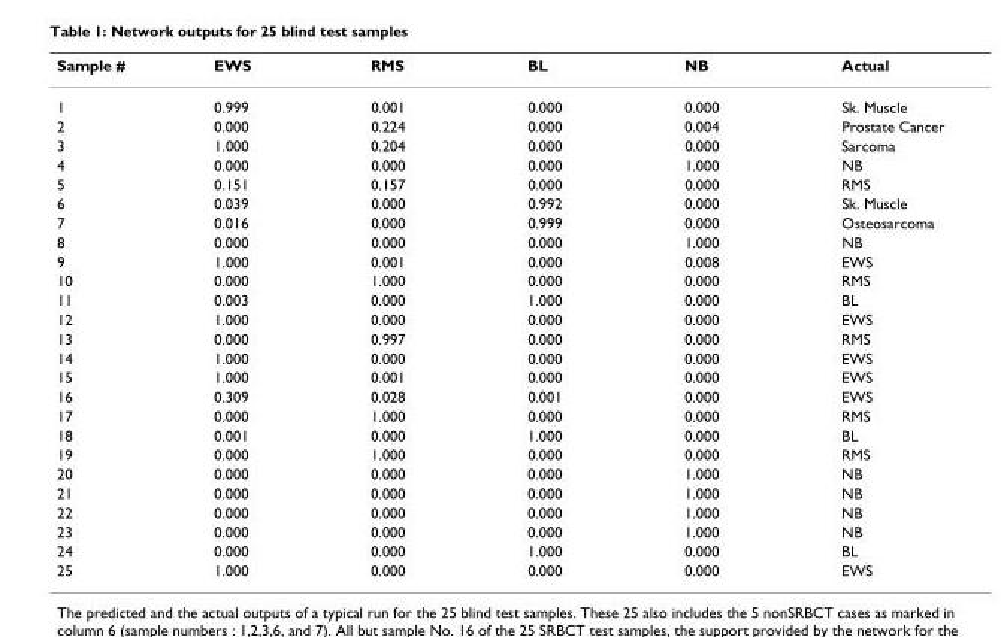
<table><thead><tr><td>Sample #</td><td>EWS</td><td>RMS</td><td>BL</td><td>NB</td><td>Actual</td></tr></thead><tbody><tr><td>1</td><td>0.999</td><td>0.001</td><td>0.000</td><td>0.000</td><td>Sk. Muscle</td></tr><tr><td>2</td><td>0.000</td><td>0.224</td><td>0.000</td><td>0.004</td><td>Prostate Cancer</td></tr><tr><td>3</td><td>1.000</td><td>0.204</td><td>0.000</td><td>0.000</td><td>Sarcoma</td></tr><tr><td>4</td><td>0.000</td><td>0.000</td><td>0.000</td><td>1.000</td><td>NB</td></tr><tr><td>5</td><td>0.151</td><td>0.157</td><td>0.000</td><td>0.000</td><td>RMS</td></tr><tr><td>6</td><td>0.039</td><td>0.000</td><td>0.992</td><td>0.000</td><td>Sk. Muscle</td></tr><tr><td>7</td><td>0.016</td><td>0.000</td><td>0.999</td><td>0.000</td><td>Osteosarcoma</td></tr><tr><td>8</td><td>0.000</td><td>0.000</td><td>0.000</td><td>1.000</td><td>NB</td></tr><tr><td>9</td><td>1.000</td><td>0.001</td><td>0.000</td><td>0.008</td><td>EWS</td></tr><tr><td>10</td><td>0.000</td><td>1.000</td><td>0.000</td><td>0.000</td><td>RMS</td></tr><tr><td>11</td><td>0.003</td><td>0.000</td><td>1.000</td><td>0.000</td><td>BL</td></tr><tr><td>12</td><td>1.000</td><td>0.000</td><td>0.000</td><td>0.000</td><td>EWS</td></tr><tr><td>13</td><td>0.000</td><td>0.997</td><td>0.000</td><td>0.000</td><td>RMS</td></tr><tr><td>14</td><td>1.000</td><td>0.000</td><td>0.000</td><td>0.000</td><td>EWS</td></tr><tr><td>15</td><td>1.000</td><td>0.001</td><td>0.000</td><td>0.000</td><td>EWS</td></tr><tr><td>16</td><td>0.309</td><td>0.028</td><td>0.001</td><td>0.000</td><td>EWS</td></tr><tr><td>17</td><td>0.000</td><td>1.000</td><td>0.000</td><td>0.000</td><td>RMS</td></tr><tr><td>18</td><td>0.001</td><td>0.000</td><td>1.000</td><td>0.000</td><td>BL</td></tr><tr><td>19</td><td>0.000</td><td>1.000</td><td>0.000</td><td>0.000</td><td>RMS</td></tr><tr><td>20</td><td>0.000</td><td>0.000</td><td>0.000</td><td>1.000</td><td>NB</td></tr><tr><td>21</td><td>0.000</td><td>0.000</td><td>0.000</td><td>1.000</td><td>NB</td></tr><tr><td>22</td><td>0.000</td><td>0.000</td><td>0.000</td><td>1.000</td><td>NB</td></tr><tr><td>23</td><td>0.000</td><td>0.000</td><td>0.000</td><td>1.000</td><td>NB</td></tr><tr><td>24</td><td>0.000</td><td>0.000</td><td>1.000</td><td>0.000</td><td>BL</td></tr><tr><td>25</td><td>1.000</td><td>0.000</td><td>0.000</td><td>0.000</td><td>EWS</td></tr></tbody></table>